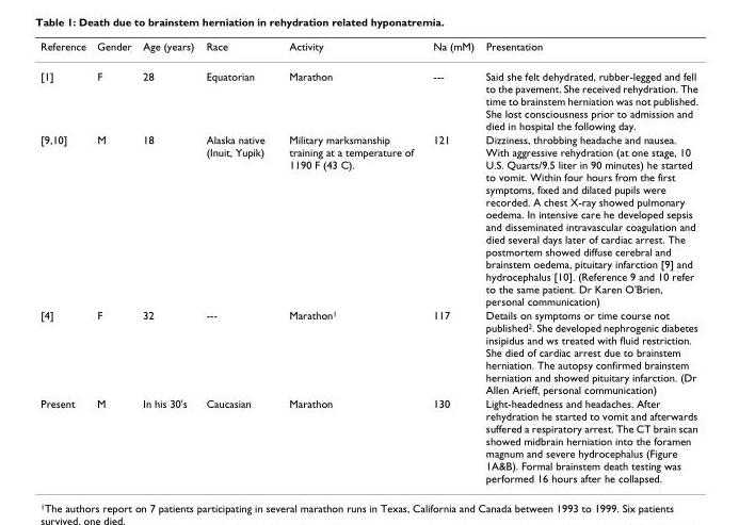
<table><thead><tr><td>Reference</td><td>Gender</td><td>Age (years)</td><td>Race</td><td>Activity</td><td>Na (mM)</td><td>Presentation</td></tr></thead><tbody><tr><td>[1]</td><td>F</td><td>28</td><td>Equatorian</td><td>Marathon</td><td>---</td><td>Said she felt dehydrated, rubber-legged and fell to the pavement. She received rehydration. The time to brainstem herniation was not published. She lost consciousness prior to admission and died in hospital the following day.</td></tr><tr><td>[9,10]</td><td>M</td><td>18</td><td>Alaska native (Inuit, Yupik)</td><td>Military marksmanship training at a temperature of 1190 F (43 C).</td><td>121</td><td>Dizziness, throbbing headache and nausea. With aggressive rehydration (at one stage, 10 U.S. Quarts/9.5 liter in 90 minutes) he started to vomit. Within four hours from the first symptoms, fixed and dilated pupils were recorded. A chest X-ray showed pulmonary oedema. In intensive care he developed sepsis and disseminated intravascular coagulation and died several days later of cardiac arrest. The postmortem showed diffuse cerebral and brainstem oedema, pituitary infarction [9] and hydrocephalus [10]. (Reference 9 and 10 refer to the same patient. Dr Karen O&#x27;Brien, personal communication)</td></tr><tr><td>[4]</td><td>F</td><td>32</td><td>---</td><td>Marathon<sup>1</sup></td><td>117</td><td>Details on symptoms or time course not published<sup>2</sup>. She developed nephrogenic diabetes insipidus and ws treated with fluid restriction. She died of cardiac arrest due to brainstem herniation. The autopsy confirmed brainstem herniation and showed pituitary infarction. (Dr Allen Arieff, personal communication)</td></tr><tr><td>Present</td><td>M</td><td>In his 30&#x27;s</td><td>Caucasian</td><td>Marathon</td><td>130</td><td>Light-headedness and headaches. After rehydration he started to vomit and afterwards suffered a respiratory arrest. The CT brain scan showed midbrain herniation into the foramen magnum and severe hydrocephalus (Figure 1A&amp;B). Formal brainstem death testing was performed 16 hours after he collapsed.</td></tr></tbody></table>